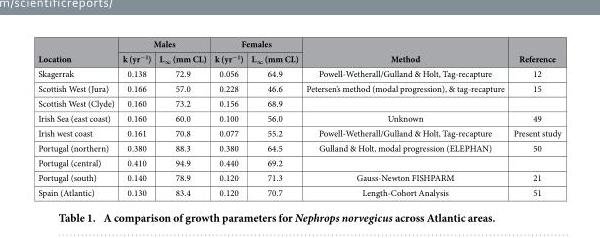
<table><thead><tr><td rowspan="2">Location</td><td colspan="2">Males</td><td colspan="2">Females</td><td rowspan="2">Method</td><td rowspan="2">Reference</td></tr><tr><td>k (yr<sup>−1</sup>)</td><td>L<sub>∞</sub> (mm CL)</td><td>k (yr<sup>−1</sup>)</td><td>L<sub>∞</sub> (mm CL)</td></tr></thead><tbody><tr><td>Skagerrak</td><td>0.138</td><td>72.9</td><td>0.056</td><td>64.9</td><td>Powell-Wetherall/Gulland &amp; Holt, Tag-recapture</td><td>12</td></tr><tr><td>Scottish West (Jura)</td><td>0.166</td><td>57.0</td><td>0.228</td><td>46.6</td><td>Petersen’s method (modal progression), &amp; tag-recapture</td><td>15</td></tr><tr><td>Scottish West (Clyde)</td><td>0.160</td><td>73.2</td><td>0.156</td><td>68.9</td><td></td><td></td></tr><tr><td>Irish Sea (east coast)</td><td>0.160</td><td>60.0</td><td>0.100</td><td>56.0</td><td>Unknown</td><td>49</td></tr><tr><td>Irish west coast</td><td>0.161</td><td>70.8</td><td>0.077</td><td>55.2</td><td>Powell-Wetherall/Gulland &amp; Holt, Tag-recapture</td><td>Present study</td></tr><tr><td>Portugal (northern)</td><td>0.380</td><td>88.3</td><td>0.380</td><td>64.5</td><td>Gulland &amp; Holt, modal progression (ELEPHAN)</td><td>50</td></tr><tr><td>Portugal (central)</td><td>0.410</td><td>94.9</td><td>0.440</td><td>69.2</td><td></td><td></td></tr><tr><td>Portugal (south)</td><td>0.140</td><td>78.9</td><td>0.120</td><td>71.3</td><td>Gauss-Newton FISHPARM</td><td>21</td></tr><tr><td>Spain (Atlantic)</td><td>0.130</td><td>83.4</td><td>0.120</td><td>70.7</td><td>Length-Cohort Analysis</td><td>51</td></tr></tbody></table>